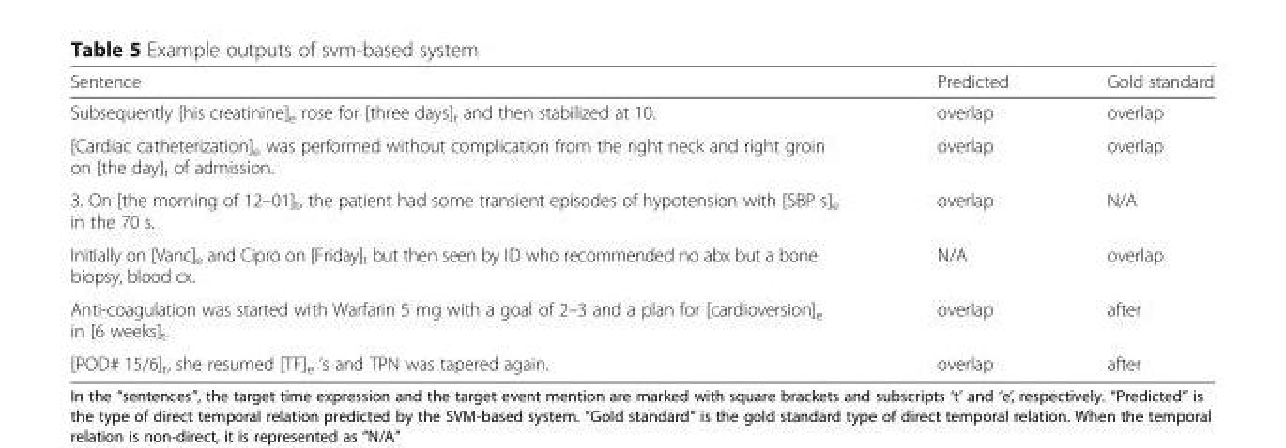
<table><thead><tr><td>Sentence</td><td>Predicted</td><td>Gold standard</td></tr></thead><tbody><tr><td>Subsequently [his creatinine]<sub>e</sub> rose for [three days]<sub>t</sub> and then stabilized at 10.</td><td>overlap</td><td>overlap</td></tr><tr><td>[Cardiac catheterization]<sub>e</sub> was performed without complication from the right neck and right groin on [the day]<sub>t</sub> of admission.</td><td>overlap</td><td>overlap</td></tr><tr><td>3. On [the morning of 12–01]<sub>t</sub>, the patient had some transient episodes of hypotension with [SBP s]<sub>e</sub> in the 70 s.</td><td>overlap</td><td>N/A</td></tr><tr><td>Initially on [Vanc]<sub>e</sub> and Cipro on [Friday]<sub>t</sub> but then seen by ID who recommended no abx but a bone biopsy, blood cx.</td><td>N/A</td><td>overlap</td></tr><tr><td>Anti-coagulation was started with Warfarin 5 mg with a goal of 2–3 and a plan for [cardioversion]<sub>e</sub> in [6 weeks]<sub>t</sub>.</td><td>overlap</td><td>after</td></tr><tr><td>[POD# 15/6]<sub>t</sub>, she resumed [TF]<sub>e</sub> ‘s and TPN was tapered again.</td><td>overlap</td><td>after</td></tr></tbody></table>